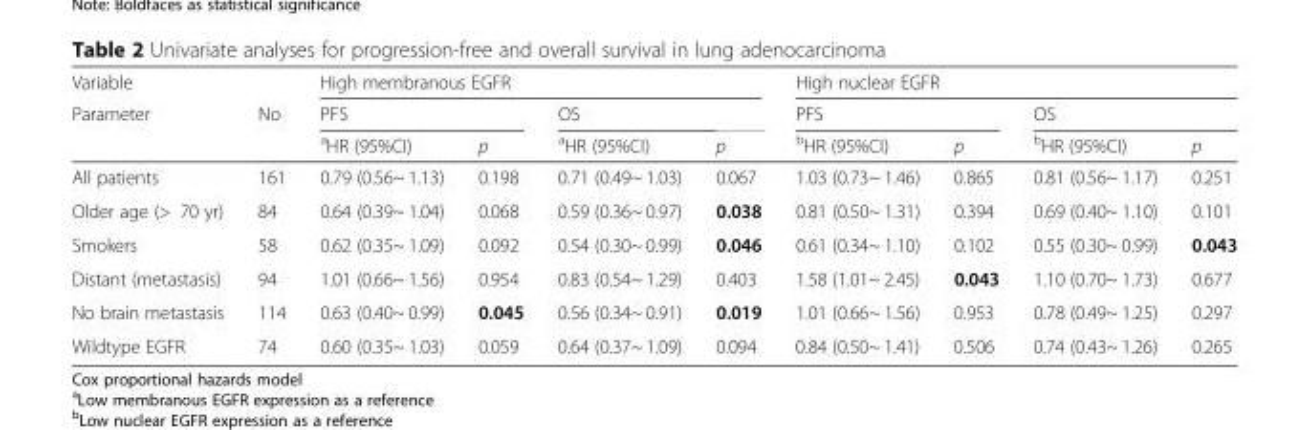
<table><thead><tr><td rowspan="3">Variable Parameter</td><td rowspan="3">No</td><td colspan="4">High membranous EGFR</td><td colspan="4">High nuclear EGFR</td></tr><tr><td colspan="2">PFS</td><td rowspan="2">OS <sup>a</sup>HR (95%CI)</td><td rowspan="2">p</td><td colspan="2">PFS</td><td colspan="2">OS</td></tr><tr><td><sup>a</sup>HR (95%CI)</td><td>p</td><td><sup>b</sup>HR (95%CI)</td><td>p</td><td><sup>b</sup>HR (95%CI)</td><td>p</td></tr></thead><tbody><tr><td>All patients</td><td>161</td><td>0.79 (0.56~ 1.13)</td><td>0.198</td><td>0.71 (0.49~ 1.03)</td><td>0.067</td><td>1.03 (0.73~ 1.46)</td><td>0.865</td><td>0.81 (0.56~ 1.17)</td><td>0.251</td></tr><tr><td>Older age (&gt; 70 yr)</td><td>84</td><td>0.64 (0.39~ 1.04)</td><td>0.068</td><td>0.59 (0.36~ 0.97)</td><td>0.038</td><td>0.81 (0.50~ 1.31)</td><td>0.394</td><td>0.69 (0.40~ 1.10)</td><td>0.101</td></tr><tr><td>Smokers</td><td>58</td><td>0.62 (0.35~ 1.09)</td><td>0.092</td><td>0.54 (0.30~ 0.99)</td><td>0.046</td><td>0.61 (0.34~ 1.10)</td><td>0.102</td><td>0.55 (0.30~ 0.99)</td><td>0.043</td></tr><tr><td>Distant (metastasis)</td><td>94</td><td>1.01 (0.66~ 1.56)</td><td>0.954</td><td>0.83 (0.54~ 1.29)</td><td>0.403</td><td>1.58 (1.01~ 2.45)</td><td>0.043</td><td>1.10 (0.70~ 1.73)</td><td>0.677</td></tr><tr><td>No brain metastasis</td><td>114</td><td>0.63 (0.40~ 0.99)</td><td>0.045</td><td>0.56 (0.34~ 0.91)</td><td>0.019</td><td>1.01 (0.66~ 1.56)</td><td>0.953</td><td>0.78 (0.49~ 1.25)</td><td>0.297</td></tr><tr><td>Wildtype EGFR</td><td>74</td><td>0.60 (0.35~ 1.03)</td><td>0.059</td><td>0.64 (0.37~ 1.09)</td><td>0.094</td><td>0.84 (0.50~ 1.41)</td><td>0.506</td><td>0.74 (0.43~ 1.26)</td><td>0.265</td></tr></tbody></table>